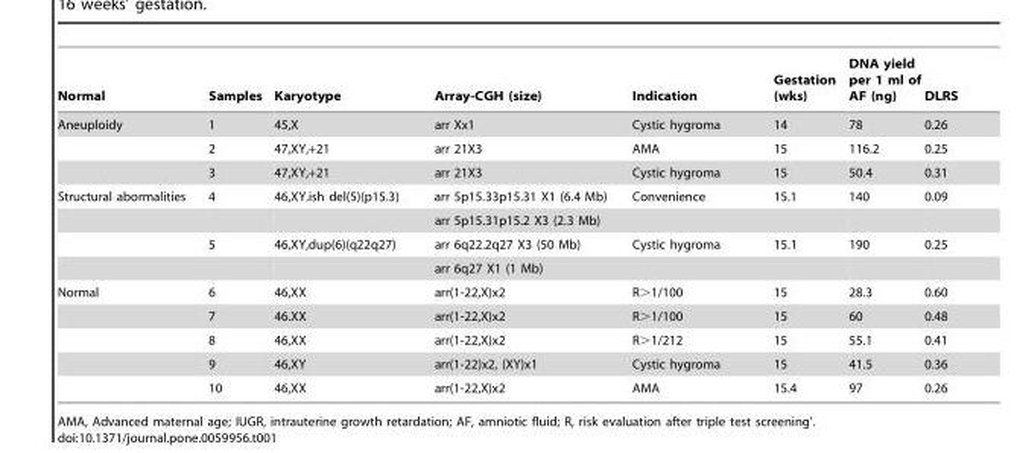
<table><thead><tr><td>Normal</td><td>Samples</td><td>Karyotype</td><td>Array-CGH (size)</td><td>Indication</td><td>Gestation (wks)</td><td>DNA yield per 1 ml of AF (ng)</td><td>DLRS</td></tr></thead><tbody><tr><td rowspan="3">Aneuploidy</td><td>1</td><td>45,X</td><td>arr Xx1</td><td>Cystic hygroma</td><td>14</td><td>78</td><td>0.26</td></tr><tr><td>2</td><td>47,XY,+21</td><td>arr 21X3</td><td>AMA</td><td>15</td><td>116.2</td><td>0.25</td></tr><tr><td>3</td><td>47,XY,+21</td><td>arr 21X3</td><td>Cystic hygroma</td><td>15</td><td>50.4</td><td>0.31</td></tr><tr><td rowspan="4">Structural abormalities</td><td>4</td><td>46,XY.ish del(5)(p15.3)</td><td>arr 5p15.33p15.31 X1 (6.4 Mb)</td><td>Convenience</td><td>15.1</td><td>140</td><td>0.09</td></tr><tr><td></td><td></td><td>arr 5p15.31p15.2 X3 (2.3 Mb)</td><td></td><td></td><td></td><td></td></tr><tr><td>5</td><td>46,XY,dup(6)(q22q27)</td><td>arr 6q22.2q27 X3 (50 Mb)</td><td>Cystic hygroma</td><td>15.1</td><td>190</td><td>0.25</td></tr><tr><td></td><td></td><td>arr 6q27 X1 (1 Mb)</td><td></td><td></td><td></td><td></td></tr><tr><td rowspan="5">Normal</td><td>6</td><td>46,XX</td><td>arr(1-22,X)x2</td><td>R&gt;1/100</td><td>15</td><td>28.3</td><td>0.60</td></tr><tr><td>7</td><td>46.XX</td><td>arr(1-22,X)x2</td><td>R&gt;1/100</td><td>15</td><td>60</td><td>0.48</td></tr><tr><td>8</td><td>46,XX</td><td>arr(1-22,X)x2</td><td>R&gt;1/212</td><td>15</td><td>55.1</td><td>0.41</td></tr><tr><td>9</td><td>46,XY</td><td>arr(1-22)x2, (XY)x1</td><td>Cystic hygroma</td><td>15</td><td>41.5</td><td>0.36</td></tr><tr><td>10</td><td>46,XX</td><td>arr(1-22,X)x2</td><td>AMA</td><td>15.4</td><td>97</td><td>0.26</td></tr></tbody></table>